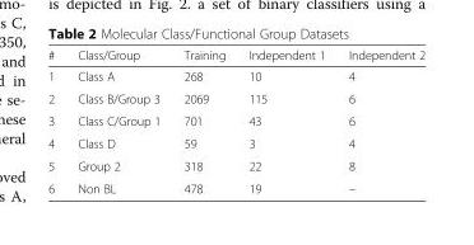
<table><thead><tr><td>#</td><td>Class/Group</td><td>Training</td><td>Independent 1</td><td>Independent 2</td></tr></thead><tbody><tr><td>1</td><td>Class A</td><td>268</td><td>10</td><td>4</td></tr><tr><td>2</td><td>Class B/Group 3</td><td>2069</td><td>115</td><td>6</td></tr><tr><td>3</td><td>Class C/Group 1</td><td>701</td><td>43</td><td>6</td></tr><tr><td>4</td><td>Class D</td><td>59</td><td>3</td><td>4</td></tr><tr><td>5</td><td>Group 2</td><td>318</td><td>22</td><td>8</td></tr><tr><td>6</td><td>Non BL</td><td>478</td><td>19</td><td>–</td></tr></tbody></table>